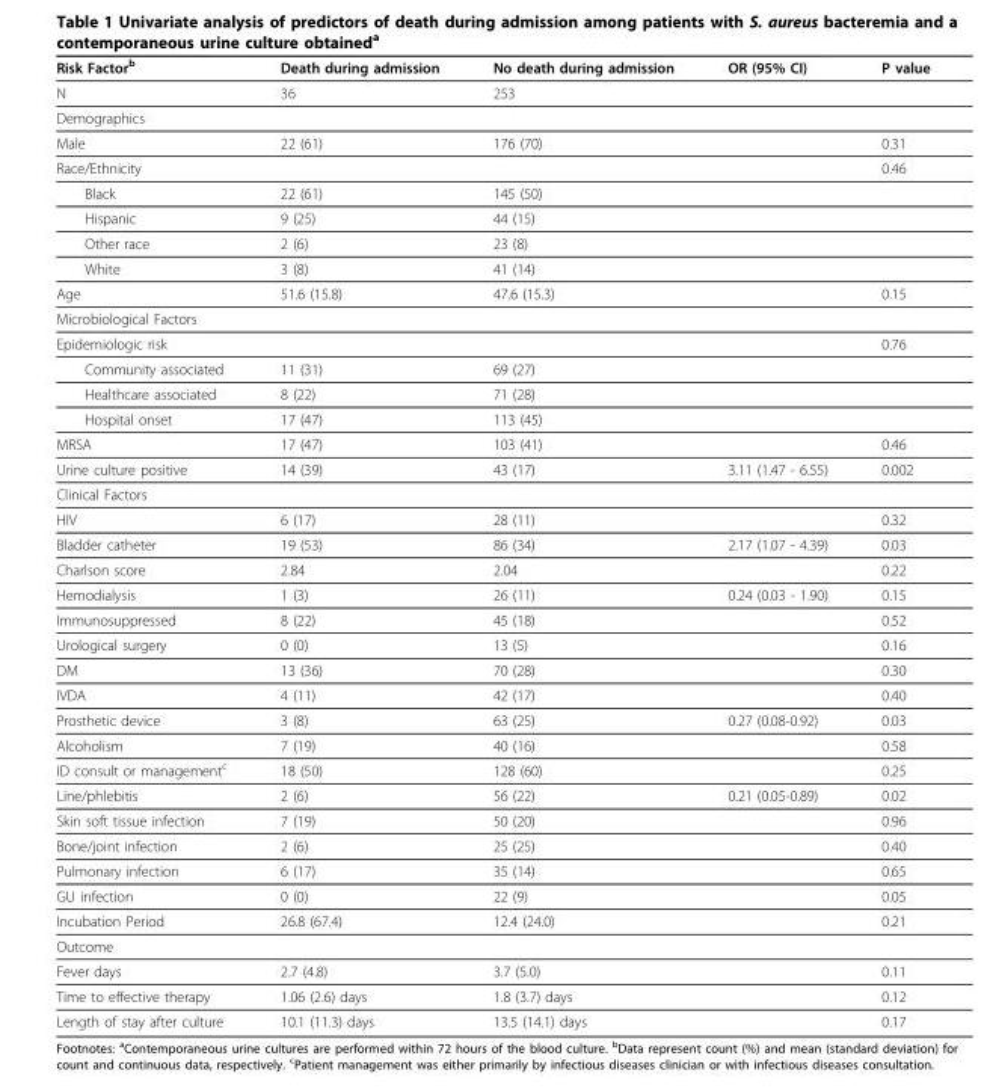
<table><thead><tr><td>Risk Factor<sup>b</sup></td><td>Death during admission</td><td>No death during admission</td><td>OR (95% CI)</td><td>P value</td></tr></thead><tbody><tr><td>N</td><td>36</td><td>253</td><td></td><td></td></tr><tr><td colspan="5">Demographics</td></tr><tr><td>Male</td><td>22 (61)</td><td>176 (70)</td><td></td><td>0.31</td></tr><tr><td>Race/Ethnicity</td><td></td><td></td><td></td><td>0.46</td></tr><tr><td>Black</td><td>22 (61)</td><td>145 (50)</td><td></td><td></td></tr><tr><td>Hispanic</td><td>9 (25)</td><td>44 (15)</td><td></td><td></td></tr><tr><td>Other race</td><td>2 (6)</td><td>23 (8)</td><td></td><td></td></tr><tr><td>White</td><td>3 (8)</td><td>41 (14)</td><td></td><td></td></tr><tr><td>Age</td><td>51.6 (15.8)</td><td>47.6 (15.3)</td><td></td><td>0.15</td></tr><tr><td colspan="5">Microbiological Factors</td></tr><tr><td>Epidemiologic risk</td><td></td><td></td><td></td><td>0.76</td></tr><tr><td>Community associated</td><td>11 (31)</td><td>69 (27)</td><td></td><td></td></tr><tr><td>Healthcare associated</td><td>8 (22)</td><td>71 (28)</td><td></td><td></td></tr><tr><td>Hospital onset</td><td>17 (47)</td><td>113 (45)</td><td></td><td></td></tr><tr><td>MRSA</td><td>17 (47)</td><td>103 (41)</td><td></td><td>0.46</td></tr><tr><td>Urine culture positive</td><td>14 (39)</td><td>43 (17)</td><td>3.11 (1.47 - 6.55)</td><td>0.002</td></tr><tr><td colspan="5">Clinical Factors</td></tr><tr><td>HIV</td><td>6 (17)</td><td>28 (11)</td><td></td><td>0.32</td></tr><tr><td>Bladder catheter</td><td>19 (53)</td><td>86 (34)</td><td>2.17 (1.07 - 4.39)</td><td>0.03</td></tr><tr><td>Charlson score</td><td>2.84</td><td>2.04</td><td></td><td>0.22</td></tr><tr><td>Hemodialysis</td><td>1 (3)</td><td>26 (11)</td><td>0.24 (0.03 - 1.90)</td><td>0.15</td></tr><tr><td>Immunosuppressed</td><td>8 (22)</td><td>45 (18)</td><td></td><td>0.52</td></tr><tr><td>Urological surgery</td><td>0 (0)</td><td>13 (5)</td><td></td><td>0.16</td></tr><tr><td>DM</td><td>13 (36)</td><td>70 (28)</td><td></td><td>0.30</td></tr><tr><td>IVDA</td><td>4 (11)</td><td>42 (17)</td><td></td><td>0.40</td></tr><tr><td>Prosthetic device</td><td>3 (8)</td><td>63 (25)</td><td>0.27 (0.08-0.92)</td><td>0.03</td></tr><tr><td>Alcoholism</td><td>7 (19)</td><td>40 (16)</td><td></td><td>0.58</td></tr><tr><td>ID consult or management<sup>c</sup></td><td>18 (50)</td><td>128 (60)</td><td></td><td>0.25</td></tr><tr><td>Line/phlebitis</td><td>2 (6)</td><td>56 (22)</td><td>0.21 (0.05-0.89)</td><td>0.02</td></tr><tr><td>Skin soft tissue infection</td><td>7 (19)</td><td>50 (20)</td><td></td><td>0.96</td></tr><tr><td>Bone/joint infection</td><td>2 (6)</td><td>25 (25)</td><td></td><td>0.40</td></tr><tr><td>Pulmonary infection</td><td>6 (17)</td><td>35 (14)</td><td></td><td>0.65</td></tr><tr><td>GU infection</td><td>0 (0)</td><td>22 (9)</td><td></td><td>0.05</td></tr><tr><td>Incubation Period</td><td>26.8 (67.4)</td><td>12.4 (24.0)</td><td></td><td>0.21</td></tr><tr><td colspan="5">Outcome</td></tr><tr><td>Fever days</td><td>2.7 (4.8)</td><td>3.7 (5.0)</td><td></td><td>0.11</td></tr><tr><td>Time to effective therapy</td><td>1.06 (2.6) days</td><td>1.8 (3.7) days</td><td></td><td>0.12</td></tr><tr><td>Length of stay after culture</td><td>10.1 (11.3) days</td><td>13.5 (14.1) days</td><td></td><td>0.17</td></tr></tbody></table>